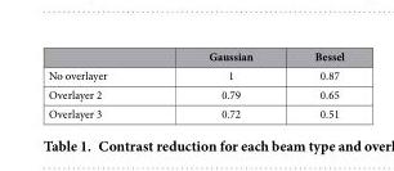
<table><thead><tr><td></td><td>Gaussian</td><td>Bessel</td></tr></thead><tbody><tr><td>No overlayer</td><td>1</td><td>0.87</td></tr><tr><td>Overlayer 2</td><td>0.79</td><td>0.65</td></tr><tr><td>Overlayer 3</td><td>0.72</td><td>0.51</td></tr></tbody></table>